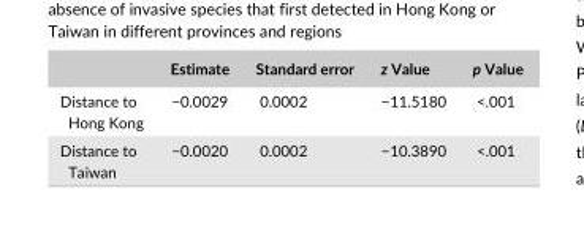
<table><thead><tr><td></td><td>Estimate</td><td>Standard error</td><td>z Value</td><td>p Value</td></tr></thead><tbody><tr><td>Distance to Hong Kong</td><td>−0.0029</td><td>0.0002</td><td>−11.5180</td><td>&lt;.001</td></tr><tr><td>Distance to Taiwan</td><td>−0.0020</td><td>0.0002</td><td>−10.3890</td><td>&lt;.001</td></tr></tbody></table>